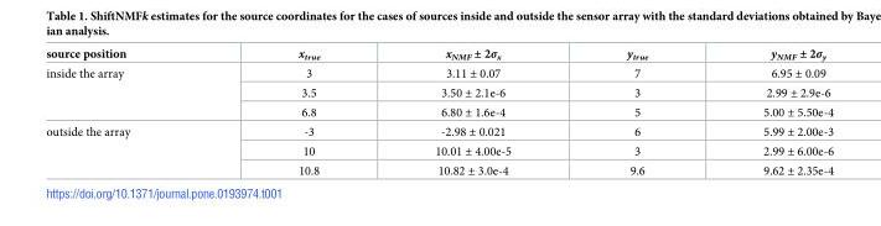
<table><thead><tr><td>source position</td><td>x<sub>true</sub></td><td>x<sub>NMF</sub> ± 2σ<sub>x</sub></td><td>y<sub>true</sub></td><td>y<sub>NMF</sub> ± 2σ<sub>y</sub></td></tr></thead><tbody><tr><td rowspan="3">inside the array</td><td>3</td><td>3.11 ± 0.07</td><td>7</td><td>6.95 ± 0.09</td></tr><tr><td>3.5</td><td>3.50 ± 2.1e-6</td><td>3</td><td>2.99 ± 2.9e-6</td></tr><tr><td>6.8</td><td>6.80 ± 1.6e-4</td><td>5</td><td>5.00 ± 5.50e-4</td></tr><tr><td rowspan="3">outside the array</td><td>-3</td><td>-2.98 ± 0.021</td><td>6</td><td>5.99 ± 2.00e-3</td></tr><tr><td>10</td><td>10.01 ± 4.00e-5</td><td>3</td><td>2.99 ± 6.00e-6</td></tr><tr><td>10.8</td><td>10.82 ± 3.0e-4</td><td>9.6</td><td>9.62 ± 2.35e-4</td></tr></tbody></table>